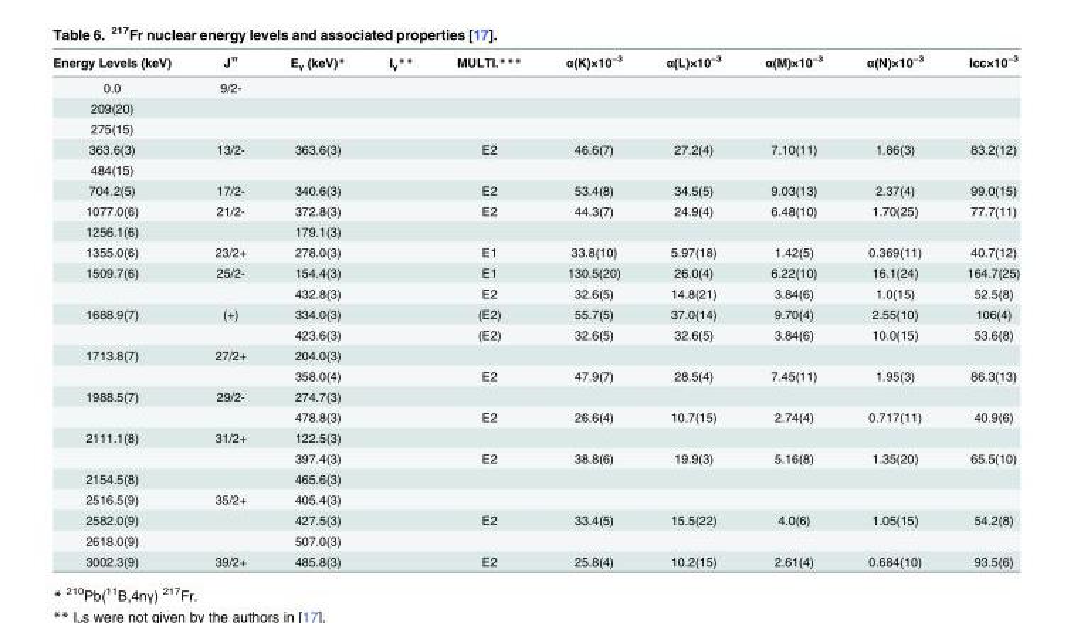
<table><thead><tr><td>Energy Levels (keV)</td><td>J<sup>π</sup></td><td>E<sub>γ</sub> (keV)*</td><td>I<sub>γ</sub>**</td><td>MULTI.***</td><td>α(K)×10<sup>−3</sup></td><td>α(L)×10<sup>−3</sup></td><td>α(M)×10<sup>−3</sup></td><td>α(N)×10<sup>−3</sup></td><td>Icc×10<sup>−3</sup></td></tr></thead><tbody><tr><td>0.0</td><td>9/2-</td><td></td><td></td><td></td><td></td><td></td><td></td><td></td><td></td></tr><tr><td colspan="10">209(20)</td></tr><tr><td colspan="10">275(15)</td></tr><tr><td>363.6(3)</td><td>13/2-</td><td>363.6(3)</td><td></td><td>E2</td><td>46.6(7)</td><td>27.2(4)</td><td>7.10(11)</td><td>1.86(3)</td><td>83.2(12)</td></tr><tr><td colspan="10">484(15)</td></tr><tr><td>704.2(5)</td><td>17/2-</td><td>340.6(3)</td><td></td><td>E2</td><td>53.4(8)</td><td>34.5(5)</td><td>9.03(13)</td><td>2.37(4)</td><td>99.0(15)</td></tr><tr><td>1077.0(6)</td><td>21/2-</td><td>372.8(3)</td><td></td><td>E2</td><td>44.3(7)</td><td>24.9(4)</td><td>6.48(10)</td><td>1.70(25)</td><td>77.7(11)</td></tr><tr><td>1256.1(6)</td><td></td><td>179.1(3)</td><td></td><td></td><td></td><td></td><td></td><td></td><td></td></tr><tr><td>1355.0(6)</td><td>23/2+</td><td>278.0(3)</td><td></td><td>E1</td><td>33.8(10)</td><td>5.97(18)</td><td>1.42(5)</td><td>0.369(11)</td><td>40.7(12)</td></tr><tr><td rowspan="2">1509.7(6)</td><td>25/2-</td><td>154.4(3)</td><td></td><td>E1</td><td>130.5(20)</td><td>26.0(4)</td><td>6.22(10)</td><td>16.1(24)</td><td>164.7(25)</td></tr><tr><td></td><td>432.8(3)</td><td></td><td>E2</td><td>32.6(5)</td><td>14.8(21)</td><td>3.84(6)</td><td>1.0(15)</td><td>52.5(8)</td></tr><tr><td rowspan="2">1688.9(7)</td><td>(+)</td><td>334.0(3)</td><td></td><td>(E2)</td><td>55.7(5)</td><td>37.0(14)</td><td>9.70(4)</td><td>2.55(10)</td><td>106(4)</td></tr><tr><td></td><td>423.6(3)</td><td></td><td>(E2)</td><td>32.6(5)</td><td>32.6(5)</td><td>3.84(6)</td><td>10.0(15)</td><td>53.6(8)</td></tr><tr><td rowspan="2">1713.8(7)</td><td>27/2+</td><td>204.0(3)</td><td></td><td></td><td></td><td></td><td></td><td></td><td></td></tr><tr><td></td><td>358.0(4)</td><td></td><td>E2</td><td>47.9(7)</td><td>28.5(4)</td><td>7.45(11)</td><td>1.95(3)</td><td>86.3(13)</td></tr><tr><td rowspan="2">1988.5(7)</td><td>29/2-</td><td>274.7(3)</td><td></td><td></td><td></td><td></td><td></td><td></td><td></td></tr><tr><td></td><td>478.8(3)</td><td></td><td>E2</td><td>26.6(4)</td><td>10.7(15)</td><td>2.74(4)</td><td>0.717(11)</td><td>40.9(6)</td></tr><tr><td rowspan="2">2111.1(8)</td><td>31/2+</td><td>122.5(3)</td><td></td><td></td><td></td><td></td><td></td><td></td><td></td></tr><tr><td></td><td>397.4(3)</td><td></td><td>E2</td><td>38.8(6)</td><td>19.9(3)</td><td>5.16(8)</td><td>1.35(20)</td><td>65.5(10)</td></tr><tr><td>2154.5(8)</td><td></td><td>465.6(3)</td><td></td><td></td><td></td><td></td><td></td><td></td><td></td></tr><tr><td>2516.5(9)</td><td>35/2+</td><td>405.4(3)</td><td></td><td></td><td></td><td></td><td></td><td></td><td></td></tr><tr><td>2582.0(9)</td><td></td><td>427.5(3)</td><td></td><td>E2</td><td>33.4(5)</td><td>15.5(22)</td><td>4.0(6)</td><td>1.05(15)</td><td>54.2(8)</td></tr><tr><td>2618.0(9)</td><td></td><td>507.0(3)</td><td></td><td></td><td></td><td></td><td></td><td></td><td></td></tr><tr><td>3002.3(9)</td><td>39/2+</td><td>485.8(3)</td><td></td><td>E2</td><td>25.8(4)</td><td>10.2(15)</td><td>2.61(4)</td><td>0.684(10)</td><td>93.5(6)</td></tr></tbody></table>